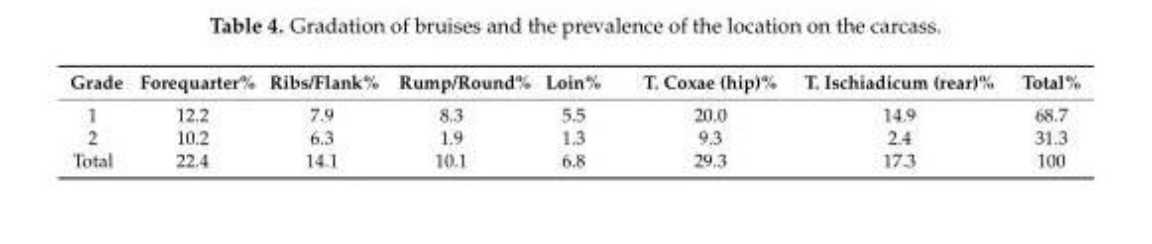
<table><thead><tr><td>Grade</td><td>Forequarter%</td><td>Ribs/Flank%</td><td>Rump/Round%</td><td>Loin%</td><td>T. Coxae (hip)%</td><td>T. Ischiadicum (rear)%</td><td>Total%</td></tr></thead><tbody><tr><td>1</td><td>12.2</td><td>7.9</td><td>8.3</td><td>5.5</td><td>20.0</td><td>14.9</td><td>68.7</td></tr><tr><td>2</td><td>10.2</td><td>6.3</td><td>1.9</td><td>1.3</td><td>9.3</td><td>2.4</td><td>31.3</td></tr><tr><td>Total</td><td>22.4</td><td>14.1</td><td>10.1</td><td>6.8</td><td>29.3</td><td>17.3</td><td>100</td></tr></tbody></table>